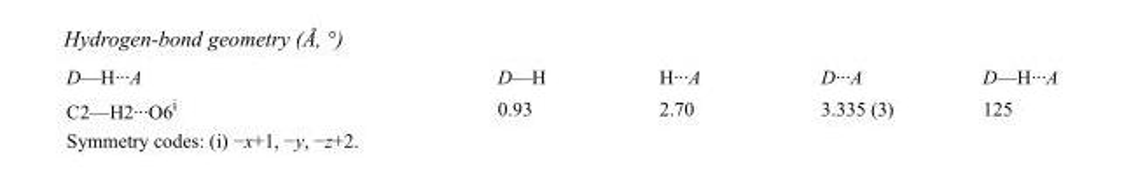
<table><tbody><tr><td>D—H···A</td><td>D—H</td><td>H···A</td><td>D···A</td><td>D—H···A</td></tr><tr><td>C2—H2···O6<sup>i</sup></td><td>0.93</td><td>2.70</td><td>3.335 (3)</td><td>125</td></tr></tbody></table>